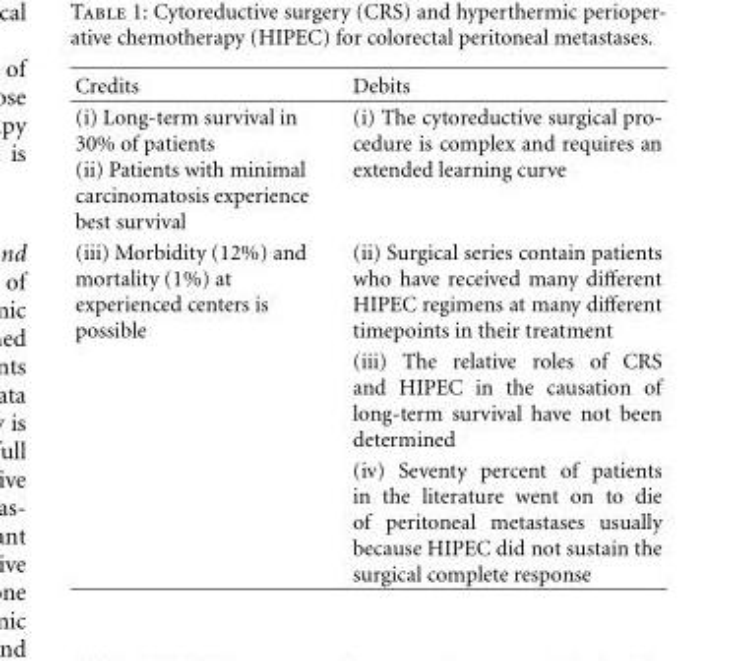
<table><thead><tr><td>Credits</td><td>Debits</td></tr></thead><tbody><tr><td>(i) Long-term survival in 30% of patients (ii) Patients with minimal carcinomatosis experience best survival</td><td>(i) The cytoreductive surgical pro- cedure is complex and requires an extended learning curve</td></tr><tr><td rowspan="3">(iii) Morbidity (12%) and mortality (1%) at experienced centers is possible</td><td>(ii) Surgical series contain patients who have received many different HIPEC regimens at many different timepoints in their treatment</td></tr><tr><td>(iii) The relative roles of CRS and HIPEC in the causation of long-term survival have not been determined</td></tr><tr><td>(iv) Seventy percent of patients in the literature went on to die of peritoneal metastases usually because HIPEC did not sustain the surgical complete response</td></tr></tbody></table>